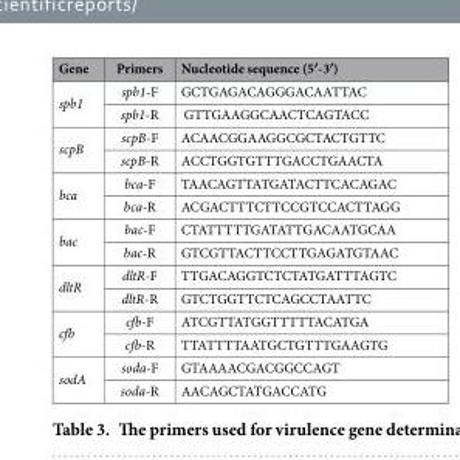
<table><thead><tr><td>Gene</td><td>Primers</td><td>Nucleotide sequence (5′-3′)</td></tr></thead><tbody><tr><td rowspan="2">spb1</td><td>spb1-F</td><td>GCTGAGACAGGGACAATTAC</td></tr><tr><td>spb1-R</td><td>GTTGAAGGCAACTCAGTACC</td></tr><tr><td rowspan="2">scpB</td><td>scpB-F</td><td>ACAACGGAAGGCGCTACTGTTC</td></tr><tr><td>scpB-R</td><td>ACCTGGTGTTTGACCTGAACTA</td></tr><tr><td rowspan="2">bca</td><td>bca-F</td><td>TAACAGTTATGATACTTCACAGAC</td></tr><tr><td>bca-R</td><td>ACGACTTTCTTCCGTCCACTTAGG</td></tr><tr><td rowspan="2">bac</td><td>bac-F</td><td>CTATTTTTGATATTGACAATGCAA</td></tr><tr><td>bac-R</td><td>GTCGTTACTTCCTTGAGATGTAAC</td></tr><tr><td rowspan="2">dltR</td><td>dltR-F</td><td>TTGACAGGTCTCTATGATTTAGTC</td></tr><tr><td>dltR-R</td><td>GTCTGGTTCTCAGCCTAATTC</td></tr><tr><td rowspan="2">cfb</td><td>cfb-F</td><td>ATCGTTATGGTTTTTACATGA</td></tr><tr><td>cfb-R</td><td>TTATTTTAATGCTGTTTGAAGTG</td></tr><tr><td rowspan="2">sodA</td><td>soda-F</td><td>GTAAAACGACGGCCAGT</td></tr><tr><td>soda-R</td><td>AACAGCTATGACCATG</td></tr></tbody></table>